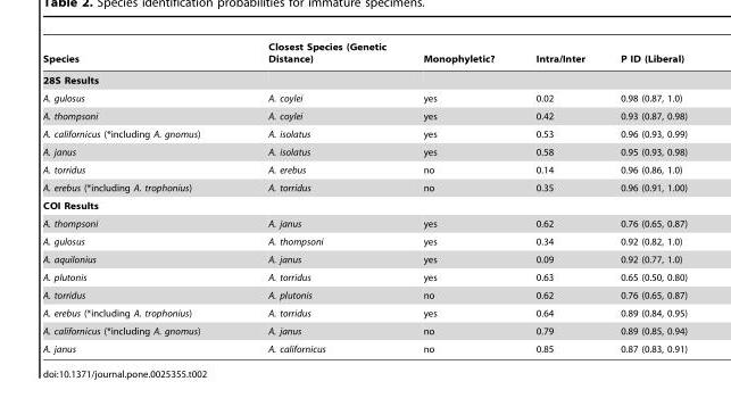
<table><thead><tr><td>Species</td><td>Closest Species (Genetic Distance)</td><td>Monophyletic?</td><td>Intra/Inter</td><td>P ID (Liberal)</td></tr></thead><tbody><tr><td colspan="5">28S Results</td></tr><tr><td>A. gulosus</td><td>A. coylei</td><td>yes</td><td>0.02</td><td>0.98 (0.87, 1.0)</td></tr><tr><td>A. thompsoni</td><td>A. coylei</td><td>yes</td><td>0.42</td><td>0.93 (0.87, 0.98)</td></tr><tr><td>A. californicus (*including A. gnomus)</td><td>A. isolatus</td><td>yes</td><td>0.53</td><td>0.96 (0.93, 0.99)</td></tr><tr><td>A. janus</td><td>A. isolatus</td><td>yes</td><td>0.58</td><td>0.95 (0.93, 0.98)</td></tr><tr><td>A. torridus</td><td>A. erebus</td><td>no</td><td>0.14</td><td>0.96 (0.86, 1.0)</td></tr><tr><td>A. erebus (*including A. trophonius)</td><td>A. torridus</td><td>no</td><td>0.35</td><td>0.96 (0.91, 1.00)</td></tr><tr><td colspan="5">COI Results</td></tr><tr><td>A. thompsoni</td><td>A. janus</td><td>yes</td><td>0.62</td><td>0.76 (0.65, 0.87)</td></tr><tr><td>A. gulosus</td><td>A. thompsoni</td><td>yes</td><td>0.34</td><td>0.92 (0.82, 1.0)</td></tr><tr><td>A. aquilonius</td><td>A. janus</td><td>yes</td><td>0.09</td><td>0.92 (0.77, 1.0)</td></tr><tr><td>A. plutonis</td><td>A. torridus</td><td>yes</td><td>0.63</td><td>0.65 (0.50, 0.80)</td></tr><tr><td>A. torridus</td><td>A. plutonis</td><td>no</td><td>0.62</td><td>0.76 (0.65, 0.87)</td></tr><tr><td>A. erebus (*including A. trophonius)</td><td>A. torridus</td><td>yes</td><td>0.64</td><td>0.89 (0.84, 0.95)</td></tr><tr><td>A. californicus (*including A. gnomus)</td><td>A. janus</td><td>no</td><td>0.79</td><td>0.89 (0.85, 0.94)</td></tr><tr><td>A. janus</td><td>A. californicus</td><td>no</td><td>0.85</td><td>0.87 (0.83, 0.91)</td></tr></tbody></table>